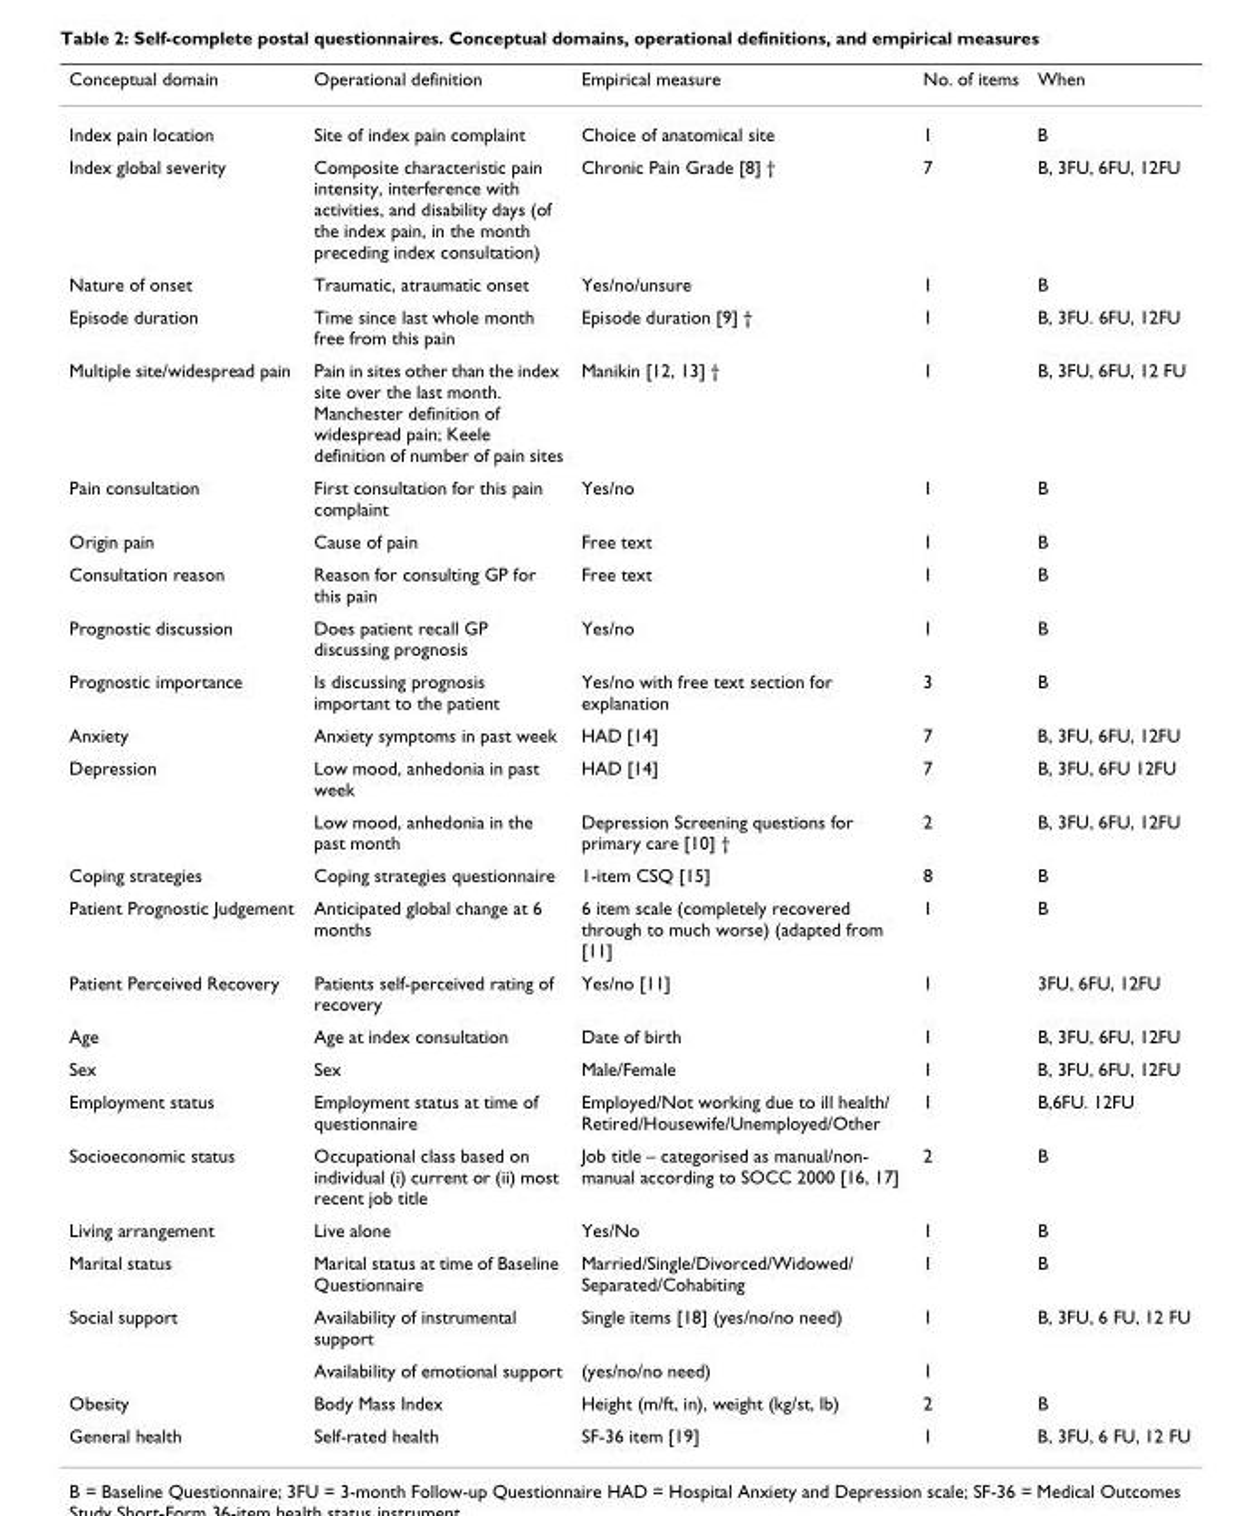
<table><thead><tr><td>Conceptual domain</td><td>Operational definition</td><td>Empirical measure</td><td>No. of items</td><td>When</td></tr></thead><tbody><tr><td>Index pain location</td><td>Site of index pain complaint</td><td>Choice of anatomical site</td><td>1</td><td>B</td></tr><tr><td>Index global severity</td><td>Composite characteristic pain intensity, interference with activities, and disability days (of the index pain, in the month preceding index consultation)</td><td>Chronic Pain Grade [8] †</td><td>7</td><td>B, 3FU, 6FU, 12FU</td></tr><tr><td>Nature of onset</td><td>Traumatic, atraumatic onset</td><td>Yes/no/unsure</td><td>1</td><td>B</td></tr><tr><td>Episode duration</td><td>Time since last whole month free from this pain</td><td>Episode duration [9] †</td><td>1</td><td>B, 3FU. 6FU, 12FU</td></tr><tr><td>Multiple site/widespread pain</td><td>Pain in sites other than the index site over the last month. Manchester definition of widespread pain; Keele definition of number of pain sites</td><td>Manikin [12, 13] †</td><td>1</td><td>B, 3FU, 6FU, 12 FU</td></tr><tr><td>Pain consultation</td><td>First consultation for this pain complaint</td><td>Yes/no</td><td>1</td><td>B</td></tr><tr><td>Origin pain</td><td>Cause of pain</td><td>Free text</td><td>1</td><td>B</td></tr><tr><td>Consultation reason</td><td>Reason for consulting GP for this pain</td><td>Free text</td><td>1</td><td>B</td></tr><tr><td>Prognostic discussion</td><td>Does patient recall GP discussing prognosis</td><td>Yes/no</td><td>1</td><td>B</td></tr><tr><td>Prognostic importance</td><td>Is discussing prognosis important to the patient</td><td>Yes/no with free text section for explanation</td><td>3</td><td>B</td></tr><tr><td>Anxiety</td><td>Anxiety symptoms in past week</td><td>HAD [14]</td><td>7</td><td>B, 3FU, 6FU, 12FU</td></tr><tr><td rowspan="2">Depression</td><td>Low mood, anhedonia in past week</td><td>HAD [14]</td><td>7</td><td>B, 3FU, 6FU 12FU</td></tr><tr><td>Low mood, anhedonia in the past month</td><td>Depression Screening questions for primary care [10] †</td><td>2</td><td>B, 3FU, 6FU, 12FU</td></tr><tr><td>Coping strategies</td><td>Coping strategies questionnaire</td><td>1-item CSQ [15]</td><td>8</td><td>B</td></tr><tr><td>Patient Prognostic Judgement</td><td>Anticipated global change at 6 months</td><td>6 item scale (completely recovered through to much worse) (adapted from [11]</td><td>1</td><td>B</td></tr><tr><td>Patient Perceived Recovery</td><td>Patients self-perceived rating of recovery</td><td>Yes/no [11]</td><td>1</td><td>3FU, 6FU, 12FU</td></tr><tr><td>Age</td><td>Age at index consultation</td><td>Date of birth</td><td>1</td><td>B, 3FU, 6FU, 12FU</td></tr><tr><td>Sex</td><td>Sex</td><td>Male/Female</td><td>1</td><td>B, 3FU, 6FU, 12FU</td></tr><tr><td>Employment status</td><td>Employment status at time of questionnaire</td><td>Employed/Not working due to ill health/ Retired/Housewife/Unemployed/Other</td><td>1</td><td>B,6FU. 12FU</td></tr><tr><td>Socioeconomic status</td><td>Occupational class based on individual (i) current or (ii) most recent job title</td><td>Job title – categorised as manual/non- manual according to SOCC 2000 [16, 17]</td><td>2</td><td>B</td></tr><tr><td>Living arrangement</td><td>Live alone</td><td>Yes/No</td><td>1</td><td>B</td></tr><tr><td>Marital status</td><td>Marital status at time of Baseline Questionnaire</td><td>Married/Single/Divorced/Widowed/ Separated/Cohabiting</td><td>1</td><td>B</td></tr><tr><td rowspan="2">Social support</td><td>Availability of instrumental support</td><td>Single items [18] (yes/no/no need)</td><td>1</td><td>B, 3FU, 6 FU, 12 FU</td></tr><tr><td>Availability of emotional support</td><td>(yes/no/no need)</td><td>1</td><td></td></tr><tr><td>Obesity</td><td>Body Mass Index</td><td>Height (m/ft, in), weight (kg/st, lb)</td><td>2</td><td>B</td></tr><tr><td>General health</td><td>Self-rated health</td><td>SF-36 item [19]</td><td>1</td><td>B, 3FU, 6 FU, 12 FU</td></tr></tbody></table>